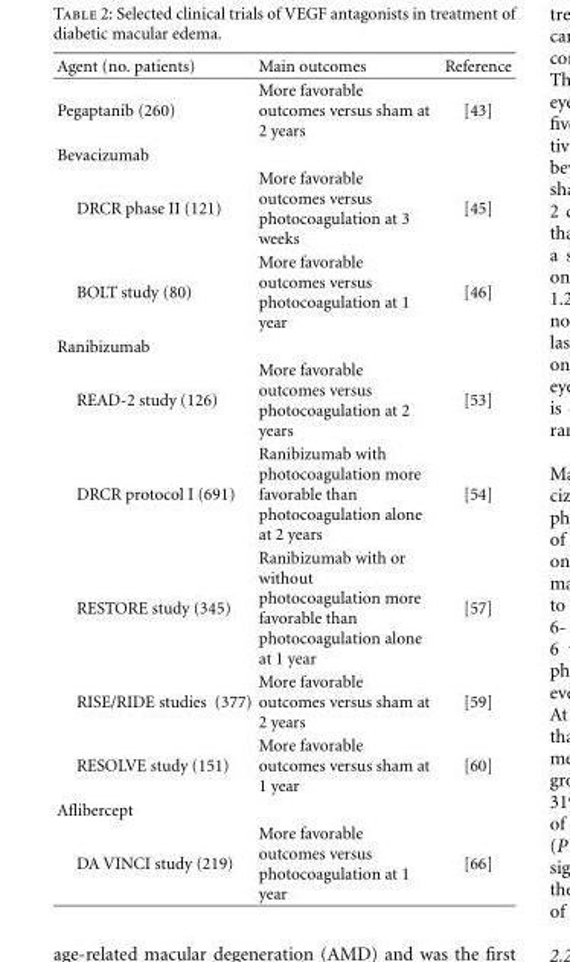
<table><thead><tr><td>Agent (no. patients)</td><td>Main outcomes</td><td>Reference</td></tr></thead><tbody><tr><td>Pegaptanib (260)</td><td>More favorable outcomes versus sham at 2 years</td><td>[43]</td></tr><tr><td colspan="3">Bevacizumab</td></tr><tr><td>DRCR phase II (121)</td><td>More favorable outcomes versus photocoagulation at 3 weeks</td><td>[45]</td></tr><tr><td>BOLT study (80)</td><td>More favorable outcomes versus photocoagulation at 1 year</td><td>[46]</td></tr><tr><td colspan="3">Ranibizumab</td></tr><tr><td>READ-2 study (126)</td><td>More favorable outcomes versus photocoagulation at 2 years</td><td>[53]</td></tr><tr><td>DRCR protocol I (691)</td><td>Ranibizumab with photocoagulation more favorable than photocoagulation alone at 2 years</td><td>[54]</td></tr><tr><td>RESTORE study (345)</td><td>Ranibizumab with or without photocoagulation more favorable than photocoagulation alone at 1 year</td><td>[57]</td></tr><tr><td>RISE/RIDE studies (377)</td><td>More favorable outcomes versus sham at 2 years</td><td>[59]</td></tr><tr><td>RESOLVE study (151)</td><td>More favorable outcomes versus sham at 1 year</td><td>[60]</td></tr><tr><td colspan="3">Aflibercept</td></tr><tr><td>DA VINCI study (219)</td><td>More favorable outcomes versus photocoagulation at 1 year</td><td>[66]</td></tr></tbody></table>